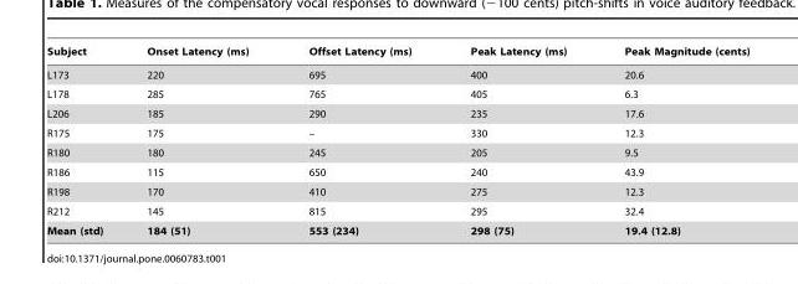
<table><thead><tr><td>Subject</td><td>Onset Latency (ms)</td><td>Offset Latency (ms)</td><td>Peak Latency (ms)</td><td>Peak Magnitude (cents)</td></tr></thead><tbody><tr><td>L173</td><td>220</td><td>695</td><td>400</td><td>20.6</td></tr><tr><td>L178</td><td>285</td><td>765</td><td>405</td><td>6.3</td></tr><tr><td>L206</td><td>185</td><td>290</td><td>235</td><td>17.6</td></tr><tr><td>R175</td><td>175</td><td>–</td><td>330</td><td>12.3</td></tr><tr><td>R180</td><td>180</td><td>245</td><td>205</td><td>9.5</td></tr><tr><td>R186</td><td>115</td><td>650</td><td>240</td><td>43.9</td></tr><tr><td>R198</td><td>170</td><td>410</td><td>275</td><td>12.3</td></tr><tr><td>R212</td><td>145</td><td>815</td><td>295</td><td>32.4</td></tr><tr><td>Mean (std)</td><td>184 (51)</td><td>553 (234)</td><td>298 (75)</td><td>19.4 (12.8)</td></tr></tbody></table>